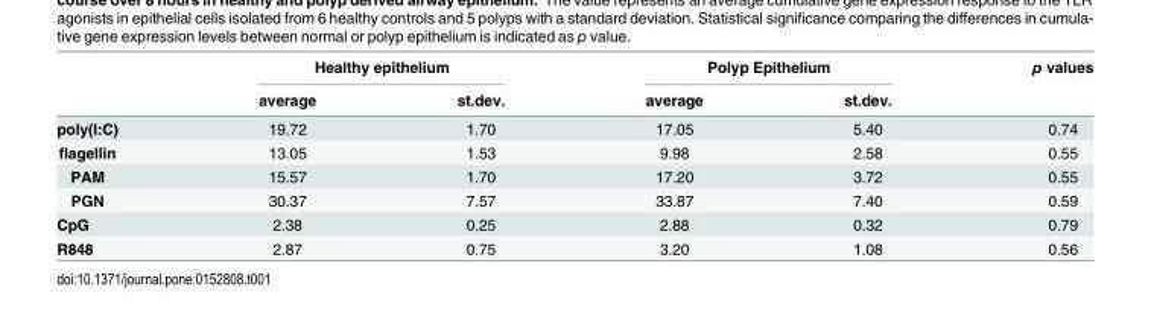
<table><thead><tr><td rowspan="2"></td><td colspan="2">Healthy epithelium</td><td colspan="2">Polyp Epithelium</td><td rowspan="2">p values</td></tr><tr><td>average</td><td>st.dev.</td><td>average</td><td>st.dev.</td></tr></thead><tbody><tr><td>poly(I:C)</td><td>19.72</td><td>1.70</td><td>17.05</td><td>5.40</td><td>0.74</td></tr><tr><td>flagellin</td><td>13.05</td><td>1.53</td><td>9.98</td><td>2.58</td><td>0.55</td></tr><tr><td>PAM</td><td>15.57</td><td>1.70</td><td>17.20</td><td>3.72</td><td>0.55</td></tr><tr><td>PGN</td><td>30.37</td><td>7.57</td><td>33.87</td><td>7.40</td><td>0.59</td></tr><tr><td>CpG</td><td>2.38</td><td>0.25</td><td>2.88</td><td>0.32</td><td>0.79</td></tr><tr><td>R848</td><td>2.87</td><td>0.75</td><td>3.20</td><td>1.08</td><td>0.56</td></tr></tbody></table>